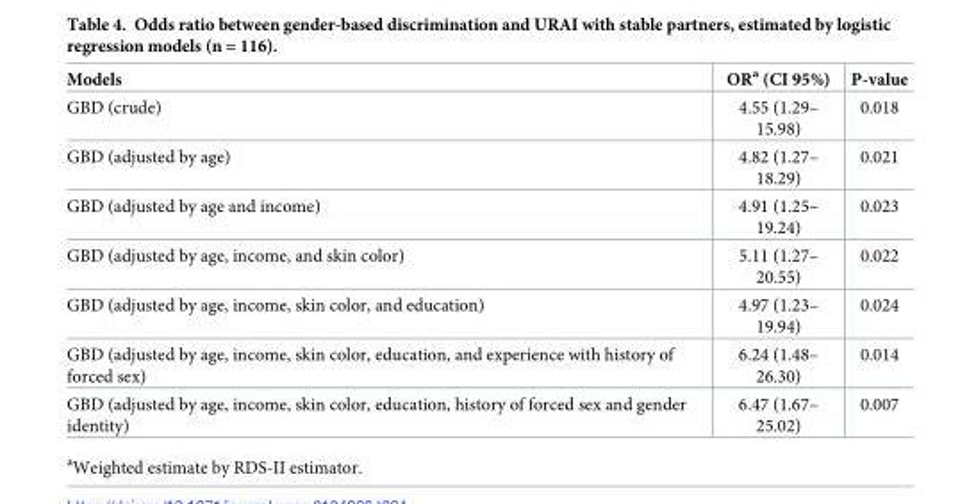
<table><thead><tr><td>Models</td><td>OR<sup>a</sup> (CI 95%)</td><td>P-value</td></tr></thead><tbody><tr><td>GBD (crude)</td><td>4.55 (1.29– 15.98)</td><td>0.018</td></tr><tr><td>GBD (adjusted by age)</td><td>4.82 (1.27– 18.29)</td><td>0.021</td></tr><tr><td>GBD (adjusted by age and income)</td><td>4.91 (1.25– 19.24)</td><td>0.023</td></tr><tr><td>GBD (adjusted by age, income, and skin color)</td><td>5.11 (1.27– 20.55)</td><td>0.022</td></tr><tr><td>GBD (adjusted by age, income, skin color, and education)</td><td>4.97 (1.23– 19.94)</td><td>0.024</td></tr><tr><td>GBD (adjusted by age, income, skin color, education, and experience with history of forced sex)</td><td>6.24 (1.48– 26.30)</td><td>0.014</td></tr><tr><td>GBD (adjusted by age, income, skin color, education, history of forced sex and gender identity)</td><td>6.47 (1.67– 25.02)</td><td>0.007</td></tr></tbody></table>